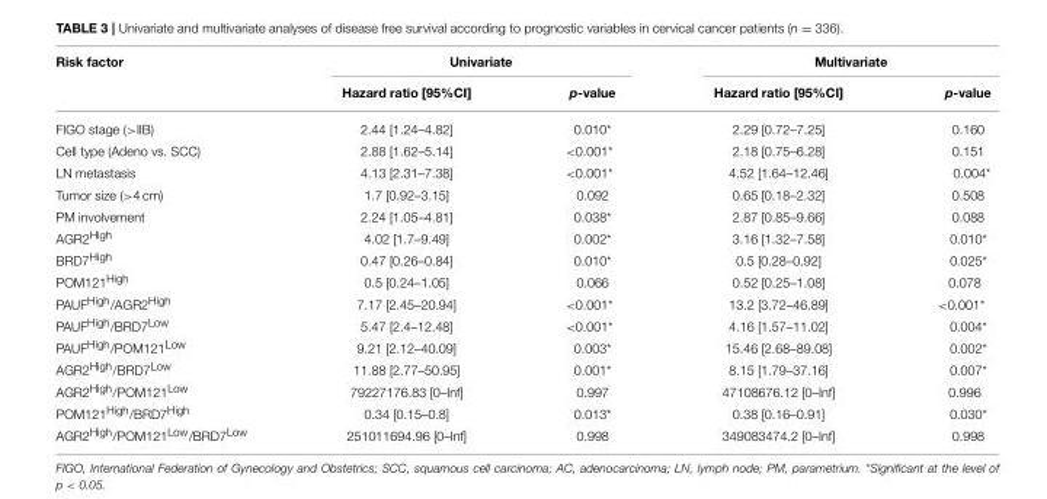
<table><thead><tr><td rowspan="2">Risk factor</td><td colspan="2">Univariate</td><td colspan="2">Multivariate</td></tr><tr><td>Hazard ratio [95%CI]</td><td>p-value</td><td>Hazard ratio [95%CI]</td><td>p-value</td></tr></thead><tbody><tr><td>FIGO stage (&gt;IIB)</td><td>2.44 [1.24–4.82]</td><td>0.010*</td><td>2.29 [0.72–7.25]</td><td>0.160</td></tr><tr><td>Cell type (Adeno vs. SCC)</td><td>2.88 [1.62–5.14]</td><td>&lt;0.001*</td><td>2.18 [0.75–6.28]</td><td>0.151</td></tr><tr><td>LN metastasis</td><td>4.13 [2.31–7.38]</td><td>&lt;0.001*</td><td>4.52 [1.64–12.46]</td><td>0.004*</td></tr><tr><td>Tumor size (&gt;4 cm)</td><td>1.7 [0.92–3.15]</td><td>0.092</td><td>0.65 [0.18–2.32]</td><td>0.508</td></tr><tr><td>PM involvement</td><td>2.24 [1.05–4.81]</td><td>0.038*</td><td>2.87 [0.85–9.66]</td><td>0.088</td></tr><tr><td>AGR2<sup>High</sup></td><td>4.02 [1.7–9.49]</td><td>0.002*</td><td>3.16 [1.32–7.58]</td><td>0.010*</td></tr><tr><td>BRD7<sup>High</sup></td><td>0.47 [0.26–0.84]</td><td>0.010*</td><td>0.5 [0.28–0.92]</td><td>0.025*</td></tr><tr><td>POM121<sup>High</sup></td><td>0.5 [0.24–1.05]</td><td>0.066</td><td>0.52 [0.25–1.08]</td><td>0.078</td></tr><tr><td>PAUF<sup>High</sup>/AGR2<sup>High</sup></td><td>7.17 [2.45–20.94]</td><td>&lt;0.001*</td><td>13.2 [3.72–46.89]</td><td>&lt;0.001*</td></tr><tr><td>PAUF<sup>High</sup>/BRD7<sup>Low</sup></td><td>5.47 [2.4–12.48]</td><td>&lt;0.001*</td><td>4.16 [1.57–11.02]</td><td>0.004*</td></tr><tr><td>PAUF<sup>High</sup>/POM121<sup>Low</sup></td><td>9.21 [2.12–40.09]</td><td>0.003*</td><td>15.46 [2.68–89.08]</td><td>0.002*</td></tr><tr><td>AGR2<sup>High</sup>/BRD7<sup>Low</sup></td><td>11.88 [2.77–50.95]</td><td>0.001*</td><td>8.15 [1.79–37.16]</td><td>0.007*</td></tr><tr><td>AGR2<sup>High</sup>/POM121<sup>Low</sup></td><td>79227176.83 [0–Inf]</td><td>0.997</td><td>47108676.12 [0–Inf]</td><td>0.996</td></tr><tr><td>POM121<sup>High</sup>/BRD7<sup>High</sup></td><td>0.34 [0.15–0.8]</td><td>0.013*</td><td>0.38 [0.16–0.91]</td><td>0.030*</td></tr><tr><td>AGR2<sup>High</sup>/POM121<sup>Low</sup>/BRD7<sup>Low</sup></td><td>251011694.96 [0–Inf]</td><td>0.998</td><td>349083474.2 [0–Inf]</td><td>0.998</td></tr></tbody></table>